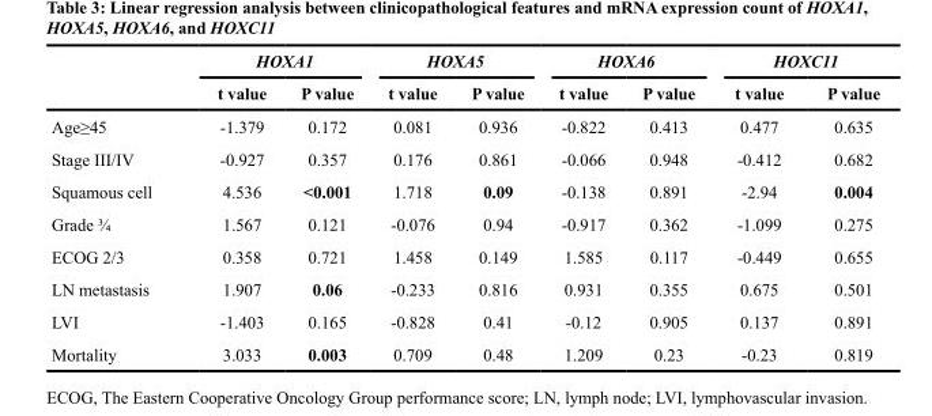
<table><thead><tr><td rowspan="2"></td><td colspan="2">HOXA1</td><td colspan="2">HOXA5</td><td colspan="2">HOXA6</td><td colspan="2">HOXC11</td></tr><tr><td>t value</td><td>P value</td><td>t value</td><td>P value</td><td>t value</td><td>P value</td><td>t value</td><td>P value</td></tr></thead><tbody><tr><td>Age≥45</td><td>-1.379</td><td>0.172</td><td>0.081</td><td>0.936</td><td>-0.822</td><td>0.413</td><td>0.477</td><td>0.635</td></tr><tr><td>Stage III/IV</td><td>-0.927</td><td>0.357</td><td>0.176</td><td>0.861</td><td>-0.066</td><td>0.948</td><td>-0.412</td><td>0.682</td></tr><tr><td>Squamous cell</td><td>4.536</td><td>&lt;0.001</td><td>1.718</td><td>0.09</td><td>-0.138</td><td>0.891</td><td>-2.94</td><td>0.004</td></tr><tr><td>Grade ¾</td><td>1.567</td><td>0.121</td><td>-0.076</td><td>0.94</td><td>-0.917</td><td>0.362</td><td>-1.099</td><td>0.275</td></tr><tr><td>ECOG 2/3</td><td>0.358</td><td>0.721</td><td>1.458</td><td>0.149</td><td>1.585</td><td>0.117</td><td>-0.449</td><td>0.655</td></tr><tr><td>LN metastasis</td><td>1.907</td><td>0.06</td><td>-0.233</td><td>0.816</td><td>0.931</td><td>0.355</td><td>0.675</td><td>0.501</td></tr><tr><td>LVI</td><td>-1.403</td><td>0.165</td><td>-0.828</td><td>0.41</td><td>-0.12</td><td>0.905</td><td>0.137</td><td>0.891</td></tr><tr><td>Mortality</td><td>3.033</td><td>0.003</td><td>0.709</td><td>0.48</td><td>1.209</td><td>0.23</td><td>-0.23</td><td>0.819</td></tr></tbody></table>